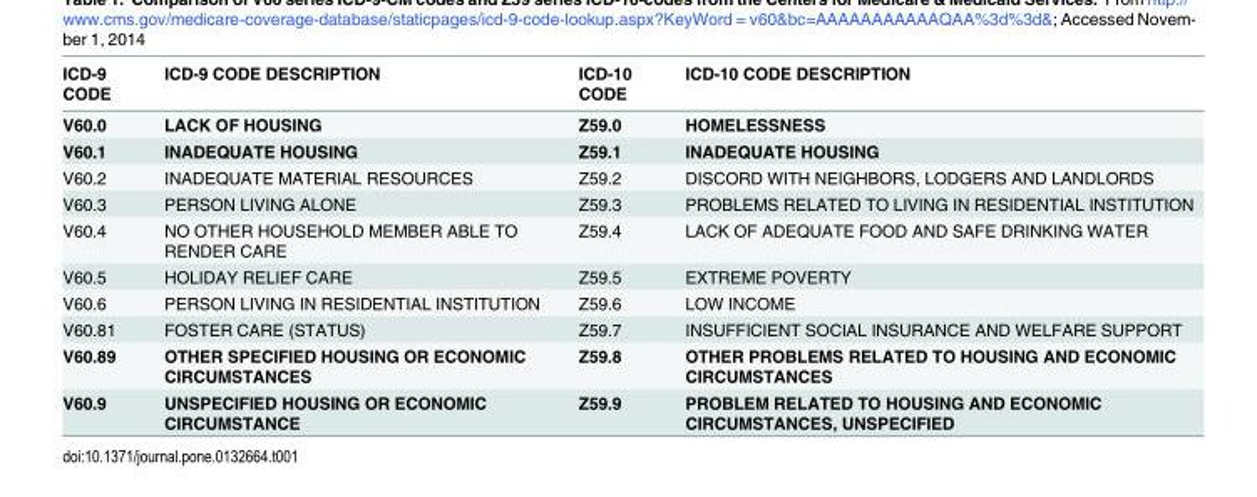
<table><thead><tr><td>ICD-9 CODE</td><td>ICD-9 CODE DESCRIPTION</td><td>ICD-10 CODE</td><td>ICD-10 CODE DESCRIPTION</td></tr></thead><tbody><tr><td>V60.0</td><td>LACK OF HOUSING</td><td>Z59.0</td><td>HOMELESSNESS</td></tr><tr><td>V60.1</td><td>INADEQUATE HOUSING</td><td>Z59.1</td><td>INADEQUATE HOUSING</td></tr><tr><td>V60.2</td><td>INADEQUATE MATERIAL RESOURCES</td><td>Z59.2</td><td>DISCORD WITH NEIGHBORS, LODGERS AND LANDLORDS</td></tr><tr><td>V60.3</td><td>PERSON LIVING ALONE</td><td>Z59.3</td><td>PROBLEMS RELATED TO LIVING IN RESIDENTIAL INSTITUTION</td></tr><tr><td>V60.4</td><td>NO OTHER HOUSEHOLD MEMBER ABLE TO RENDER CARE</td><td>Z59.4</td><td>LACK OF ADEQUATE FOOD AND SAFE DRINKING WATER</td></tr><tr><td>V60.5</td><td>HOLIDAY RELIEF CARE</td><td>Z59.5</td><td>EXTREME POVERTY</td></tr><tr><td>V60.6</td><td>PERSON LIVING IN RESIDENTIAL INSTITUTION</td><td>Z59.6</td><td>LOW INCOME</td></tr><tr><td>V60.81</td><td>FOSTER CARE (STATUS)</td><td>Z59.7</td><td>INSUFFICIENT SOCIAL INSURANCE AND WELFARE SUPPORT</td></tr><tr><td>V60.89</td><td>OTHER SPECIFIED HOUSING OR ECONOMIC CIRCUMSTANCES</td><td>Z59.8</td><td>OTHER PROBLEMS RELATED TO HOUSING AND ECONOMIC CIRCUMSTANCES</td></tr><tr><td>V60.9</td><td>UNSPECIFIED HOUSING OR ECONOMIC CIRCUMSTANCE</td><td>Z59.9</td><td>PROBLEM RELATED TO HOUSING AND ECONOMIC CIRCUMSTANCES, UNSPECIFIED</td></tr></tbody></table>